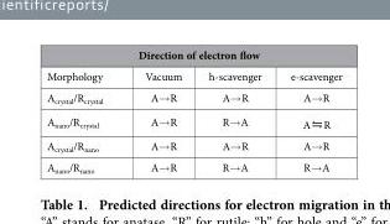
<table><thead><tr><td colspan="4">Direction of electron flow</td></tr><tr><td>Morphology</td><td>Vacuum</td><td>h-scavenger</td><td>e-scavenger</td></tr></thead><tbody><tr><td>A<sub>crystal</sub>/R<sub>crystal</sub></td><td>A→ R</td><td>A→ R</td><td>A→ R</td></tr><tr><td>A<sub>nano</sub>/R<sub>crystal</sub></td><td>A→ R</td><td>R→ A</td><td>A⇋R</td></tr><tr><td>A<sub>crystal</sub>/R<sub>nano</sub></td><td>A→ R</td><td>A→ R</td><td>A→ R</td></tr><tr><td>A<sub>nano</sub>/R<sub>nano</sub></td><td>A→ R</td><td>R→ A</td><td>R→ A</td></tr></tbody></table>